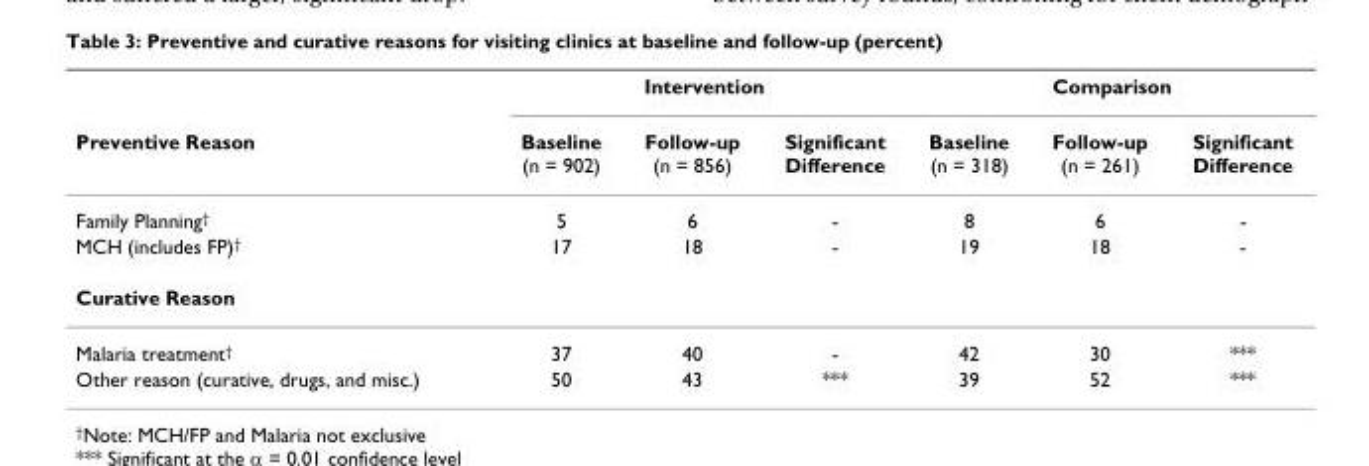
<table><thead><tr><td rowspan="2">Preventive Reason</td><td colspan="3">Intervention</td><td colspan="3">Comparison</td></tr><tr><td>Baseline (n = 902)</td><td>Follow-up (n = 856)</td><td>Significant Difference</td><td>Baseline (n = 318)</td><td>Follow-up (n = 261)</td><td>Significant Difference</td></tr></thead><tbody><tr><td>Family Planning†</td><td>5</td><td>6</td><td>-</td><td>8</td><td>6</td><td>-</td></tr><tr><td>MCH (includes FP)†</td><td>17</td><td>18</td><td>-</td><td>19</td><td>18</td><td>-</td></tr><tr><td colspan="7">Curative Reason</td></tr><tr><td>Malaria treatment†</td><td>37</td><td>40</td><td>-</td><td>42</td><td>30</td><td>***</td></tr><tr><td>Other reason (curative, drugs, and misc.)</td><td>50</td><td>43</td><td>***</td><td>39</td><td>52</td><td>***</td></tr></tbody></table>